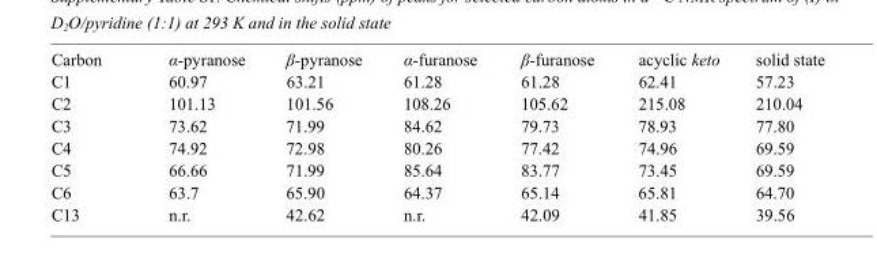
<table><tbody><tr><td>Carbon</td><td>α-pyranose</td><td>β-pyranose</td><td>α-furanose</td><td>β-furanose</td><td>acyclic keto</td><td>solid state</td></tr><tr><td>C1</td><td>60.97</td><td>63.21</td><td>61.28</td><td>61.28</td><td>62.41</td><td>57.23</td></tr><tr><td>C2</td><td>101.13</td><td>101.56</td><td>108.26</td><td>105.62</td><td>215.08</td><td>210.04</td></tr><tr><td>C3</td><td>73.62</td><td>71.99</td><td>84.62</td><td>79.73</td><td>78.93</td><td>77.80</td></tr><tr><td>C4</td><td>74.92</td><td>72.98</td><td>80.26</td><td>77.42</td><td>74.96</td><td>69.59</td></tr><tr><td>C5</td><td>66.66</td><td>71.99</td><td>85.64</td><td>83.77</td><td>73.45</td><td>69.59</td></tr><tr><td>C6</td><td>63.7</td><td>65.90</td><td>64.37</td><td>65.14</td><td>65.81</td><td>64.70</td></tr><tr><td>C13</td><td>n.r.</td><td>42.62</td><td>n.r.</td><td>42.09</td><td>41.85</td><td>39.56</td></tr></tbody></table>